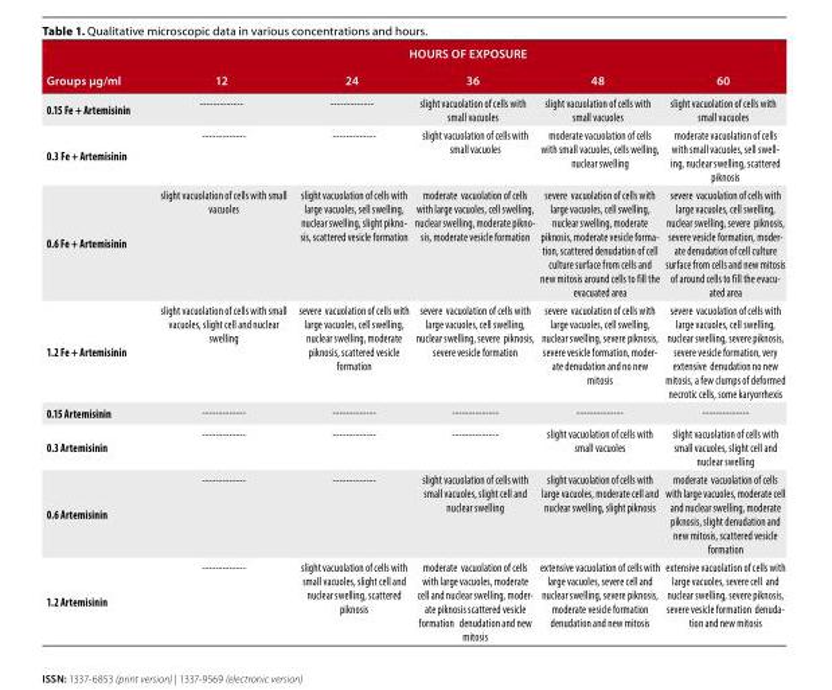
<table><thead><tr><td rowspan="2">Groups μg/ml</td><td colspan="5">HOURS OF EXPOSURE</td></tr><tr><td>12</td><td>24</td><td>36</td><td>48</td><td>60</td></tr></thead><tbody><tr><td>0.15 Fe + Artemisinin</td><td>-------------</td><td>-------------</td><td>slight vacuolation of cells with small vacuoles</td><td>slight vacuolation of cells with small vacuoles</td><td>slight vacuolation of cells with small vacuoles</td></tr><tr><td>0.3 Fe + Artemisinin</td><td>-------------</td><td>-------------</td><td>slight vacuolation of cells with small vacuoles</td><td>moderate vacuolation of cells with small vacuoles, cells welling, nuclear swelling</td><td>moderate vacuolation of cells with small vacuoles, sell swell- ing, nuclear swelling, scattered piknosis</td></tr><tr><td>0.6 Fe + Artemisinin</td><td>slight vacuolation of cells with small vacuoles</td><td>slight vacuolation of cells with large vacuoles, sell swelling, nuclear swelling, slight pikno- sis, scattered vesicle formation</td><td>moderate vacuolation of cells with large vacuoles, cell swelling, nuclear swelling, moderate pikno- sis, moderate vesicle formation</td><td>severe vacuolation of cells with large vacuoles, cell swelling, nuclear swelling, moderate piknosis, moderate vesicle forma- tion, scattered denudation of cell culture surface from cells and new mitosis around cells to fill the evacuated area</td><td>severe vacuolation of cells with large vacuoles, cell swelling, nuclear swelling, severe piknosis, severe vesicle formation, moder- ate denudation of cell culture surface from cells and new mitosis of around cells to fill the evacu- ated area</td></tr><tr><td>1.2 Fe + Artemisinin</td><td>slight vacuolation of cells with small vacuoles, slight cell and nuclear swelling</td><td>severe vacuolation of cells with large vacuoles, cell swelling, nuclear swelling, moderate piknosis, scattered vesicle formation</td><td>severe vacuolation of cells with large vacuoles, cell swelling, nuclear swelling, severe piknosis, severe vesicle formation</td><td>severe vacuolation of cells with large vacuoles, cell swelling, nuclear swelling, severe piknosis, severe vesicle formation, moder- ate denudation and no new mitosis</td><td>severe vacuolation of cells with large vacuoles, cell swelling, nuclear swelling, severe piknosis, severe vesicle formation, very extensive denudation no new mitosis, a few clumps of deformed necrotic cells, some karyorrhexis</td></tr><tr><td>0.15 Artemisinin</td><td>-------------</td><td>-------------</td><td>--------------</td><td>--------------</td><td>--------------</td></tr><tr><td>0.3 Artemisinin</td><td>-------------</td><td>-------------</td><td>--------------</td><td>slight vacuolation of cells with small vacuoles</td><td>slight vacuolation of cells with small vacuoles, slight cell and nuclear swelling</td></tr><tr><td>0.6 Artemisinin</td><td>-------------</td><td>-------------</td><td>slight vacuolation of cells with small vacuoles, slight cell and nuclear swelling</td><td>slight vacuolation of cells with large vacuoles, moderate cell and nuclear swelling, slight piknosis</td><td>moderate vacuolation of cells with large vacuoles, moderate cell and nuclear swelling, moderate piknosis, slight denudation and new mitosis, scattered vesicle formation</td></tr><tr><td>1.2 Artemisinin</td><td>-------------</td><td>slight vacuolation of cells with small vacuoles, slight cell and nuclear swelling, scattered piknosis</td><td>moderate vacuolation of cells with large vacuoles, moderate cell and nuclear swelling, moder- ate piknosis scattered vesicle formation denudation and new mitosis</td><td>extensive vacuolation of cells with large vacuoles, severe cell and nuclear swelling, severe piknosis, moderate vesicle formation denudation and new mitosis</td><td>extensive vacuolation of cells with large vacuoles, severe cell and nuclear swelling, severe piknosis, severe vesicle formation denuda- tion and new mitosis</td></tr></tbody></table>